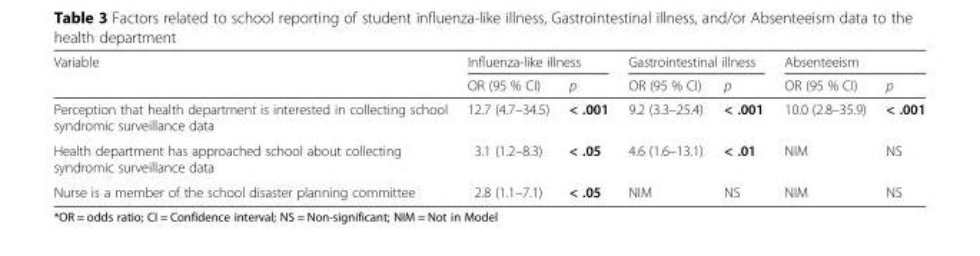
<table><thead><tr><td rowspan="2">Variable</td><td colspan="2">Influenza-like illness</td><td colspan="2">Gastrointestinal illness</td><td colspan="2">Absenteeism</td></tr><tr><td>OR (95 % CI)</td><td>p</td><td>OR (95 % CI)</td><td>p</td><td>OR (95 % CI)</td><td>p</td></tr></thead><tbody><tr><td>Perception that health department is interested in collecting school syndromic surveillance data</td><td>12.7 (4.7–34.5)</td><td>&lt; .001</td><td>9.2 (3.3–25.4)</td><td>&lt; .001</td><td>10.0 (2.8–35.9)</td><td>&lt; .001</td></tr><tr><td>Health department has approached school about collecting syndromic surveillance data</td><td>3.1 (1.2–8.3)</td><td>&lt; .05</td><td>4.6 (1.6–13.1)</td><td>&lt; .01</td><td>NIM</td><td>NS</td></tr><tr><td>Nurse is a member of the school disaster planning committee</td><td>2.8 (1.1–7.1)</td><td>&lt; .05</td><td>NIM</td><td>NS</td><td>NIM</td><td>NS</td></tr></tbody></table>